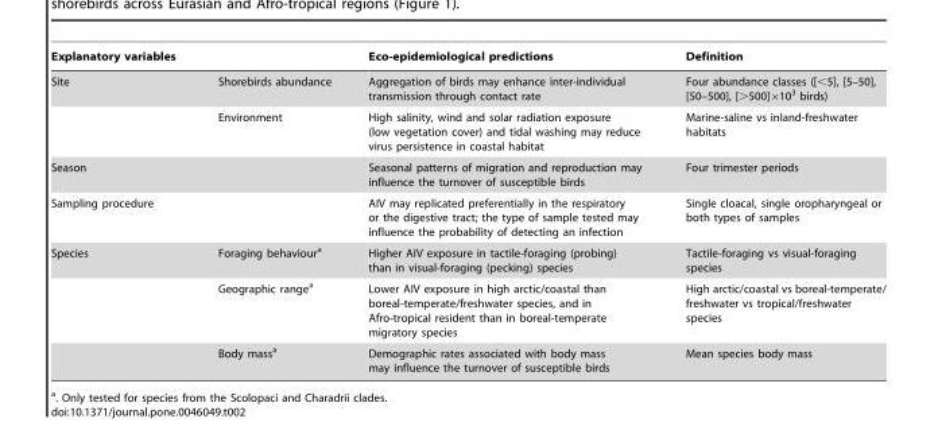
<table><thead><tr><td colspan="2">Explanatory variables</td><td rowspan="2">Eco-epidemiological predictions Aggregation of birds may enhance inter-individual transmission through contact rate</td><td rowspan="2">Definition Four abundance classes ([&lt;5], [5–50], [50–500], [&gt;500]×10<sup>3</sup> birds)</td></tr><tr><td>Site</td><td>Shorebirds abundance</td></tr></thead><tbody><tr><td></td><td>Environment</td><td>High salinity, wind and solar radiation exposure (low vegetation cover) and tidal washing may reduce virus persistence in coastal habitat</td><td>Marine-saline vs inland-freshwater habitats</td></tr><tr><td colspan="2">Season</td><td>Seasonal patterns of migration and reproduction may influence the turnover of susceptible birds</td><td>Four trimester periods</td></tr><tr><td colspan="2">Sampling procedure</td><td>AIV may replicated preferentially in the respiratory or the digestive tract; the type of sample tested may influence the probability of detecting an infection</td><td>Single cloacal, single oropharyngeal or both types of samples</td></tr><tr><td rowspan="3">Species</td><td>Foraging behaviour<sup>a</sup></td><td>Higher AIV exposure in tactile-foraging (probing) than in visual-foraging (pecking) species</td><td>Tactile-foraging vs visual-foraging species</td></tr><tr><td>Geographic range<sup>a</sup></td><td>Lower AIV exposure in high arctic/coastal than boreal-temperate/freshwater species, and in Afro-tropical resident than in boreal-temperate migratory species</td><td>High arctic/coastal vs boreal-temperate/ freshwater vs tropical/freshwater species</td></tr><tr><td>Body mass<sup>a</sup></td><td>Demographic rates associated with body mass may influence the turnover of susceptible birds</td><td>Mean species body mass</td></tr></tbody></table>